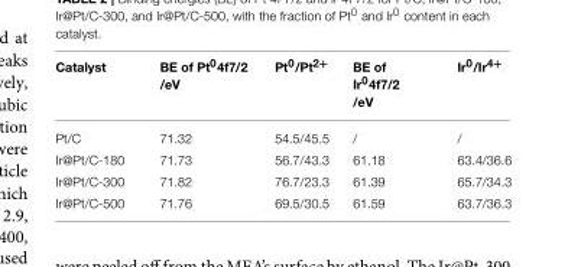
<table><thead><tr><td>Catalyst</td><td>BE of Pt<sup>0</sup>4f7/2 /eV</td><td>Pt<sup>0</sup>/Pt<sup>2+</sup></td><td>BE of Ir<sup>0</sup>4f7/2 /eV</td><td>Ir<sup>0</sup>/Ir<sup>4+</sup></td></tr></thead><tbody><tr><td>Pt/C</td><td>71.32</td><td>54.5/45.5</td><td>/</td><td>/</td></tr><tr><td>Ir@Pt/C-180</td><td>71.73</td><td>56.7/43.3</td><td>61.18</td><td>63.4/36.6</td></tr><tr><td>Ir@Pt/C-300</td><td>71.82</td><td>76.7/23.3</td><td>61.39</td><td>65.7/34.3</td></tr><tr><td>Ir@Pt/C-500</td><td>71.76</td><td>69.5/30.5</td><td>61.59</td><td>63.7/36.3</td></tr></tbody></table>